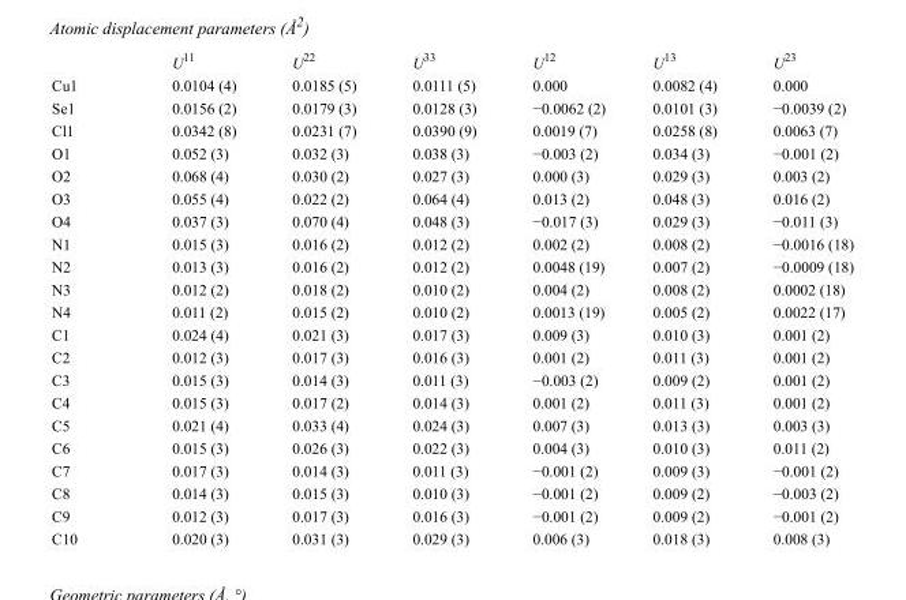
<table><thead><tr><td></td><td>U<sup>11</sup></td><td>U<sup>22</sup></td><td>U<sup>33</sup></td><td>U<sup>12</sup></td><td>U<sup>13</sup></td><td>U<sup>23</sup></td></tr></thead><tbody><tr><td>Cu1</td><td>0.0104 (4)</td><td>0.0185 (5)</td><td>0.0111 (5)</td><td>0.000</td><td>0.0082 (4)</td><td>0.000</td></tr><tr><td>Se1</td><td>0.0156 (2)</td><td>0.0179 (3)</td><td>0.0128 (3)</td><td>−0.0062 (2)</td><td>0.0101 (3)</td><td>−0.0039 (2)</td></tr><tr><td>Cl1</td><td>0.0342 (8)</td><td>0.0231 (7)</td><td>0.0390 (9)</td><td>0.0019 (7)</td><td>0.0258 (8)</td><td>0.0063 (7)</td></tr><tr><td>O1</td><td>0.052 (3)</td><td>0.032 (3)</td><td>0.038 (3)</td><td>−0.003 (2)</td><td>0.034 (3)</td><td>−0.001 (2)</td></tr><tr><td>O2</td><td>0.068 (4)</td><td>0.030 (2)</td><td>0.027 (3)</td><td>0.000 (3)</td><td>0.029 (3)</td><td>0.003 (2)</td></tr><tr><td>O3</td><td>0.055 (4)</td><td>0.022 (2)</td><td>0.064 (4)</td><td>0.013 (2)</td><td>0.048 (3)</td><td>0.016 (2)</td></tr><tr><td>O4</td><td>0.037 (3)</td><td>0.070 (4)</td><td>0.048 (3)</td><td>−0.017 (3)</td><td>0.029 (3)</td><td>−0.011 (3)</td></tr><tr><td>N1</td><td>0.015 (3)</td><td>0.016 (2)</td><td>0.012 (2)</td><td>0.002 (2)</td><td>0.008 (2)</td><td>−0.0016 (18)</td></tr><tr><td>N2</td><td>0.013 (3)</td><td>0.016 (2)</td><td>0.012 (2)</td><td>0.0048 (19)</td><td>0.007 (2)</td><td>−0.0009 (18)</td></tr><tr><td>N3</td><td>0.012 (2)</td><td>0.018 (2)</td><td>0.010 (2)</td><td>0.004 (2)</td><td>0.008 (2)</td><td>0.0002 (18)</td></tr><tr><td>N4</td><td>0.011 (2)</td><td>0.015 (2)</td><td>0.010 (2)</td><td>0.0013 (19)</td><td>0.005 (2)</td><td>0.0022 (17)</td></tr><tr><td>C1</td><td>0.024 (4)</td><td>0.021 (3)</td><td>0.017 (3)</td><td>0.009 (3)</td><td>0.010 (3)</td><td>0.001 (2)</td></tr><tr><td>C2</td><td>0.012 (3)</td><td>0.017 (3)</td><td>0.016 (3)</td><td>0.001 (2)</td><td>0.011 (3)</td><td>0.001 (2)</td></tr><tr><td>C3</td><td>0.015 (3)</td><td>0.014 (3)</td><td>0.011 (3)</td><td>−0.003 (2)</td><td>0.009 (2)</td><td>0.001 (2)</td></tr><tr><td>C4</td><td>0.015 (3)</td><td>0.017 (2)</td><td>0.014 (3)</td><td>0.001 (2)</td><td>0.011 (3)</td><td>0.001 (2)</td></tr><tr><td>C5</td><td>0.021 (4)</td><td>0.033 (4)</td><td>0.024 (3)</td><td>0.007 (3)</td><td>0.013 (3)</td><td>0.003 (3)</td></tr><tr><td>C6</td><td>0.015 (3)</td><td>0.026 (3)</td><td>0.022 (3)</td><td>0.004 (3)</td><td>0.010 (3)</td><td>0.011 (2)</td></tr><tr><td>C7</td><td>0.017 (3)</td><td>0.014 (3)</td><td>0.011 (3)</td><td>−0.001 (2)</td><td>0.009 (3)</td><td>−0.001 (2)</td></tr><tr><td>C8</td><td>0.014 (3)</td><td>0.015 (3)</td><td>0.010 (3)</td><td>−0.001 (2)</td><td>0.009 (2)</td><td>−0.003 (2)</td></tr><tr><td>C9</td><td>0.012 (3)</td><td>0.017 (3)</td><td>0.016 (3)</td><td>−0.001 (2)</td><td>0.009 (2)</td><td>−0.001 (2)</td></tr><tr><td>C10</td><td>0.020 (3)</td><td>0.031 (3)</td><td>0.029 (3)</td><td>0.006 (3)</td><td>0.018 (3)</td><td>0.008 (3)</td></tr></tbody></table>